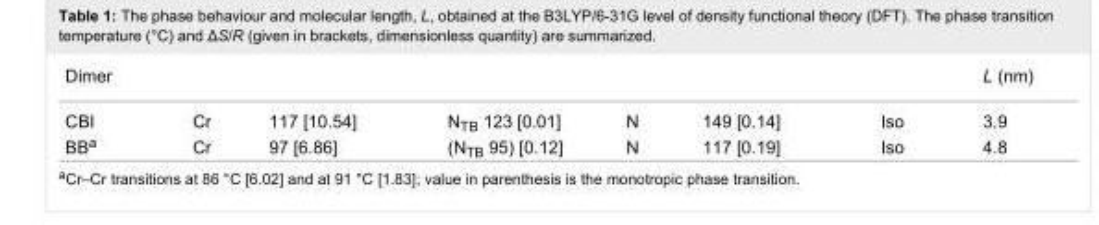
<table><tbody><tr><td>Dimer</td><td></td><td></td><td></td><td></td><td></td><td></td><td>L (nm)</td></tr><tr><td>CBI</td><td>Cr</td><td>117 [10.54]</td><td>N<sub>TB</sub> 123 [0.01]</td><td>N</td><td>149 [0.14]</td><td>Iso</td><td>3.9</td></tr><tr><td>BB<sup>a</sup></td><td>Cr</td><td>97 [6.86]</td><td>(N<sub>TB</sub> 95) [0.12]</td><td>N</td><td>117 [0.19]</td><td>Iso</td><td>4.8</td></tr></tbody></table>